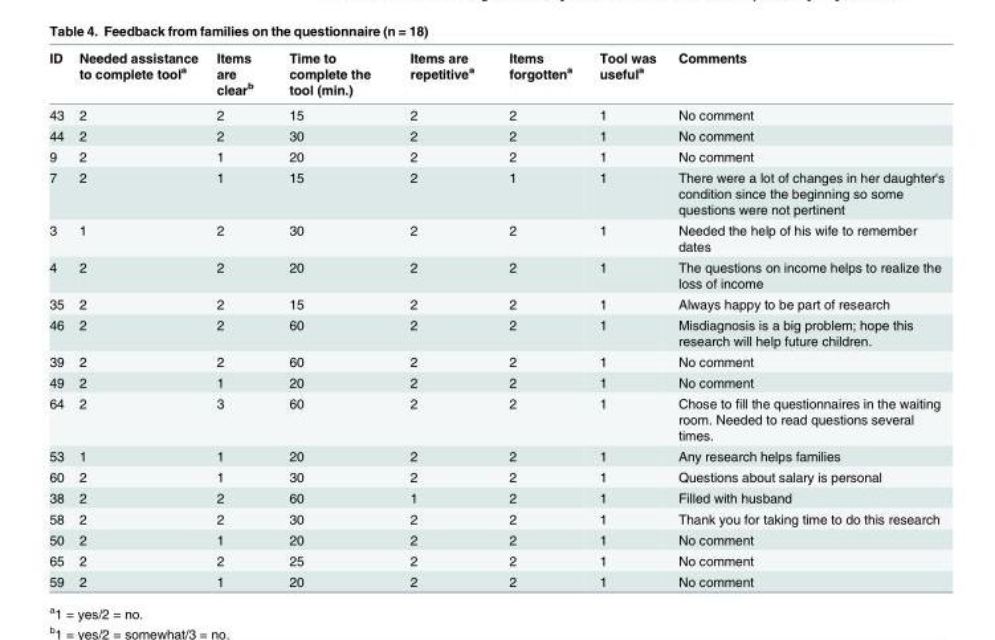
<table><thead><tr><td>ID</td><td>Needed assistance to complete tool<sup>a</sup></td><td>Items are clear<sup>b</sup></td><td>Time to complete the tool (min.)</td><td>Items are repetitive<sup>a</sup></td><td>Items forgotten<sup>a</sup></td><td>Tool was useful<sup>a</sup></td><td>Comments</td></tr></thead><tbody><tr><td>43</td><td>2</td><td>2</td><td>15</td><td>2</td><td>2</td><td>1</td><td>No comment</td></tr><tr><td>44</td><td>2</td><td>2</td><td>30</td><td>2</td><td>2</td><td>1</td><td>No comment</td></tr><tr><td>9</td><td>2</td><td>1</td><td>20</td><td>2</td><td>2</td><td>1</td><td>No comment</td></tr><tr><td>7</td><td>2</td><td>1</td><td>15</td><td>2</td><td>1</td><td>1</td><td>There were a lot of changes in her daughter&#x27;s condition since the beginning so some questions were not pertinent</td></tr><tr><td>3</td><td>1</td><td>2</td><td>30</td><td>2</td><td>2</td><td>1</td><td>Needed the help of his wife to remember dates</td></tr><tr><td>4</td><td>2</td><td>2</td><td>20</td><td>2</td><td>2</td><td>1</td><td>The questions on income helps to realize the loss of income</td></tr><tr><td>35</td><td>2</td><td>2</td><td>15</td><td>2</td><td>2</td><td>1</td><td>Always happy to be part of research</td></tr><tr><td>46</td><td>2</td><td>2</td><td>60</td><td>2</td><td>2</td><td>1</td><td>Misdiagnosis is a big problem; hope this research will help future children.</td></tr><tr><td>39</td><td>2</td><td>2</td><td>60</td><td>2</td><td>2</td><td>1</td><td>No comment</td></tr><tr><td>49</td><td>2</td><td>1</td><td>20</td><td>2</td><td>2</td><td>1</td><td>No comment</td></tr><tr><td>64</td><td>2</td><td>3</td><td>60</td><td>2</td><td>2</td><td>1</td><td>Chose to fill the questionnaires in the waiting room. Needed to read questions several times.</td></tr><tr><td>53</td><td>1</td><td>1</td><td>20</td><td>2</td><td>2</td><td>1</td><td>Any research helps families</td></tr><tr><td>60</td><td>2</td><td>1</td><td>30</td><td>2</td><td>2</td><td>1</td><td>Questions about salary is personal</td></tr><tr><td>38</td><td>2</td><td>2</td><td>60</td><td>1</td><td>2</td><td>1</td><td>Filled with husband</td></tr><tr><td>58</td><td>2</td><td>2</td><td>30</td><td>2</td><td>2</td><td>1</td><td>Thank you for taking time to do this research</td></tr><tr><td>50</td><td>2</td><td>1</td><td>20</td><td>2</td><td>2</td><td>1</td><td>No comment</td></tr><tr><td>65</td><td>2</td><td>2</td><td>25</td><td>2</td><td>2</td><td>1</td><td>No comment</td></tr><tr><td>59</td><td>2</td><td>1</td><td>20</td><td>2</td><td>2</td><td>1</td><td>No comment</td></tr></tbody></table>